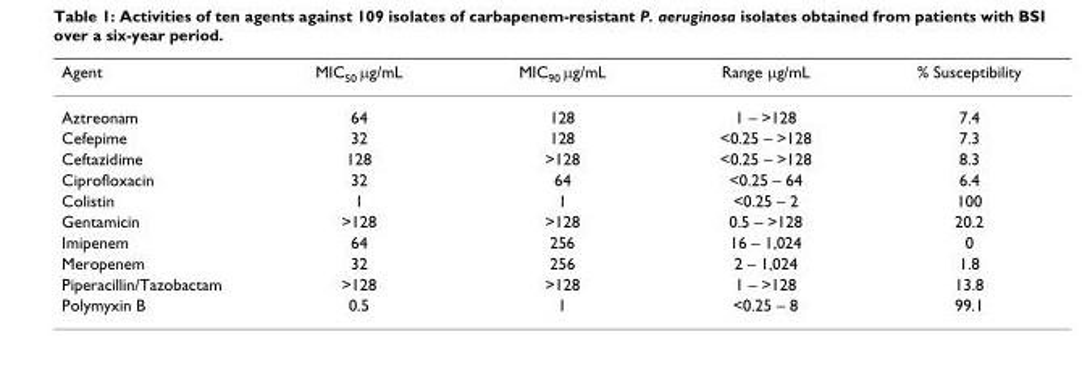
<table><thead><tr><td>Agent</td><td>MIC<sub>50</sub> µg/mL</td><td>MIC<sub>90</sub> µg/mL</td><td>Range µg/mL</td><td>% Susceptibility</td></tr></thead><tbody><tr><td>Aztreonam</td><td>64</td><td>128</td><td>1 – &gt;128</td><td>7.4</td></tr><tr><td>Cefepime</td><td>32</td><td>128</td><td>&lt;0.25 – &gt;128</td><td>7.3</td></tr><tr><td>Ceftazidime</td><td>128</td><td>&gt;128</td><td>&lt;0.25 – &gt;128</td><td>8.3</td></tr><tr><td>Ciprofloxacin</td><td>32</td><td>64</td><td>&lt;0.25 – 64</td><td>6.4</td></tr><tr><td>Colistin</td><td>1</td><td>1</td><td>&lt;0.25 – 2</td><td>100</td></tr><tr><td>Gentamicin</td><td>&gt;128</td><td>&gt;128</td><td>0.5 – &gt;128</td><td>20.2</td></tr><tr><td>Imipenem</td><td>64</td><td>256</td><td>16 – 1,024</td><td>0</td></tr><tr><td>Meropenem</td><td>32</td><td>256</td><td>2 – 1,024</td><td>1.8</td></tr><tr><td>Piperacillin/Tazobactam</td><td>&gt;128</td><td>&gt;128</td><td>1 – &gt;128</td><td>13.8</td></tr><tr><td>Polymyxin B</td><td>0.5</td><td>1</td><td>&lt;0.25 – 8</td><td>99.1</td></tr></tbody></table>